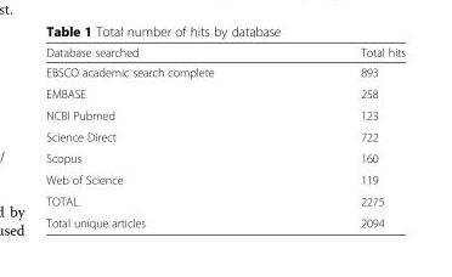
<table><thead><tr><td>Database searched</td><td>Total hits</td></tr></thead><tbody><tr><td>EBSCO academic search complete</td><td>893</td></tr><tr><td>EMBASE</td><td>258</td></tr><tr><td>NCBI Pubmed</td><td>123</td></tr><tr><td>Science Direct</td><td>722</td></tr><tr><td>Scopus</td><td>160</td></tr><tr><td>Web of Science</td><td>119</td></tr><tr><td>TOTAL</td><td>2275</td></tr><tr><td>Total unique articles</td><td>2094</td></tr></tbody></table>